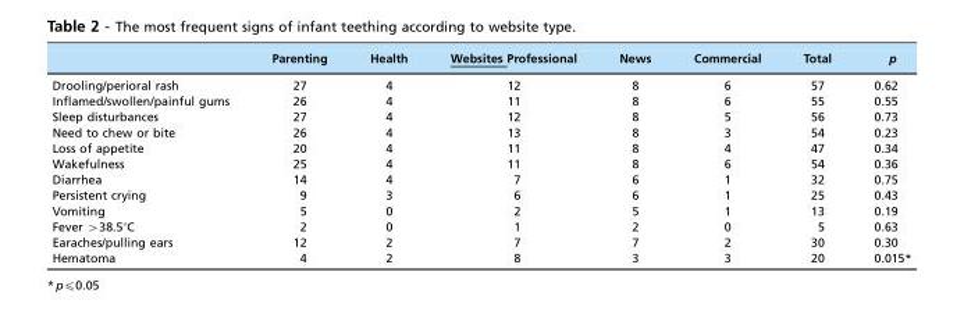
<table><thead><tr><td></td><td>Parenting</td><td>Health</td><td>Websites Professional</td><td>News</td><td>Commercial</td><td>Total</td><td>p</td></tr></thead><tbody><tr><td>Drooling/perioral rash</td><td>27</td><td>4</td><td>12</td><td>8</td><td>6</td><td>57</td><td>0.62</td></tr><tr><td>Inflamed/swollen/painful gums</td><td>26</td><td>4</td><td>11</td><td>8</td><td>6</td><td>55</td><td>0.55</td></tr><tr><td>Sleep disturbances</td><td>27</td><td>4</td><td>12</td><td>8</td><td>5</td><td>56</td><td>0.73</td></tr><tr><td>Need to chew or bite</td><td>26</td><td>4</td><td>13</td><td>8</td><td>3</td><td>54</td><td>0.23</td></tr><tr><td>Loss of appetite</td><td>20</td><td>4</td><td>11</td><td>8</td><td>4</td><td>47</td><td>0.34</td></tr><tr><td>Wakefulness</td><td>25</td><td>4</td><td>11</td><td>8</td><td>6</td><td>54</td><td>0.36</td></tr><tr><td>Diarrhea</td><td>14</td><td>4</td><td>7</td><td>6</td><td>1</td><td>32</td><td>0.75</td></tr><tr><td>Persistent crying</td><td>9</td><td>3</td><td>6</td><td>6</td><td>1</td><td>25</td><td>0.43</td></tr><tr><td>Vomiting</td><td>5</td><td>0</td><td>2</td><td>5</td><td>1</td><td>13</td><td>0.19</td></tr><tr><td>Fever &gt;38.5°C</td><td>2</td><td>0</td><td>1</td><td>2</td><td>0</td><td>5</td><td>0.63</td></tr><tr><td>Earaches/pulling ears</td><td>12</td><td>2</td><td>7</td><td>7</td><td>2</td><td>30</td><td>0.30</td></tr><tr><td>Hematoma</td><td>4</td><td>2</td><td>8</td><td>3</td><td>3</td><td>20</td><td>0.015*</td></tr></tbody></table>